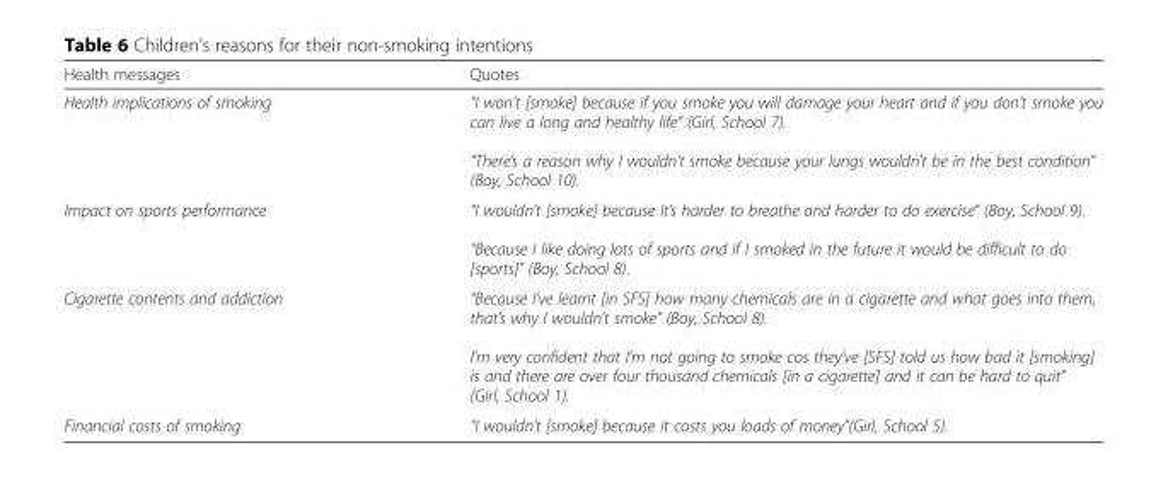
<table><thead><tr><td>Health messages</td><td>Quotes</td></tr></thead><tbody><tr><td>Health implications of smoking</td><td>“I won’t [smoke] because if you smoke you will damage your heart and if you don’t smoke you can live a long and healthy life” (Girl, School 7). “There’s a reason why I wouldn&#x27;t smoke because your lungs wouldn&#x27;t be in the best condition” (Boy, School 10).</td></tr><tr><td>Impact on sports performance</td><td>“I wouldn’t [smoke] because It’s harder to breathe and harder to do exercise” (Boy, School 9). “Because I like doing lots of sports and if I smoked in the future it would be difficult to do [sports]” (Boy, School 8).</td></tr><tr><td>Cigarette contents and addiction</td><td>“Because I’ve learnt [in SFS] how many chemicals are in a cigarette and what goes into them, that’s why I wouldn’t smoke” (Boy, School 8). I’m very confident that I’m not going to smoke cos they’ve [SFS] told us how bad it [smoking] is and there are over four thousand chemicals [in a cigarette] and it can be hard to quit” (Girl, School 1).</td></tr><tr><td>Financial costs of smoking</td><td>“I wouldn’t [smoke] because it costs you loads of money”(Girl, School 5).</td></tr></tbody></table>